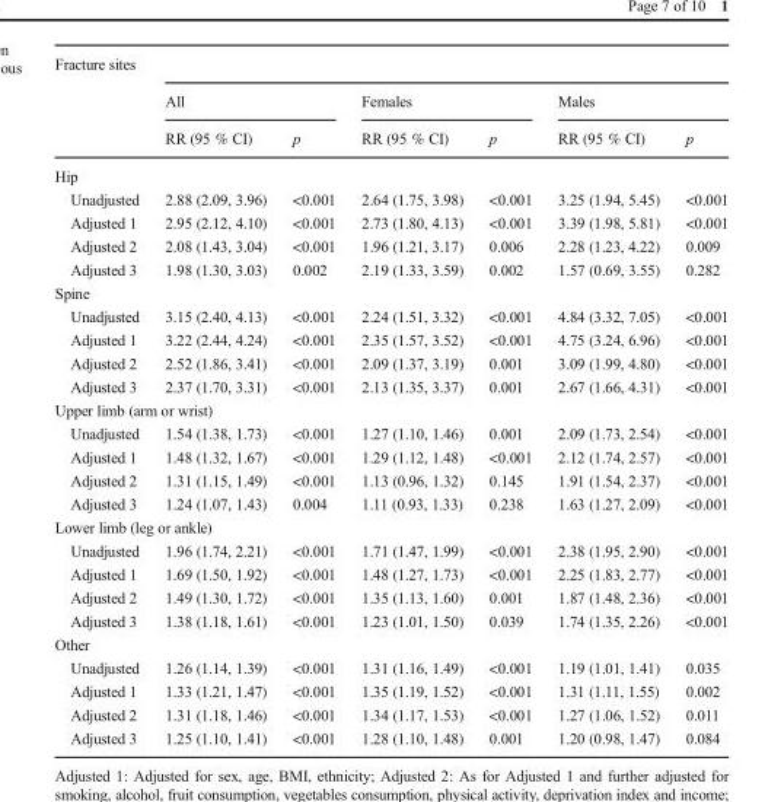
<table><thead><tr><td rowspan="3">Fracture sites</td><td></td><td></td><td></td><td></td><td></td><td></td></tr><tr><td colspan="2">All</td><td colspan="2">Females</td><td colspan="2">Males</td></tr><tr><td>RR (95 % CI)</td><td>p</td><td>RR (95 % CI)</td><td>p</td><td>RR (95 % CI)</td><td>p</td></tr></thead><tbody><tr><td colspan="7">Hip</td></tr><tr><td>Unadjusted</td><td>2.88 (2.09, 3.96)</td><td>&lt;0.001</td><td>2.64 (1.75, 3.98)</td><td>&lt;0.001</td><td>3.25 (1.94, 5.45)</td><td>&lt;0.001</td></tr><tr><td>Adjusted 1</td><td>2.95 (2.12, 4.10)</td><td>&lt;0.001</td><td>2.73 (1.80, 4.13)</td><td>&lt;0.001</td><td>3.39 (1.98, 5.81)</td><td>&lt;0.001</td></tr><tr><td>Adjusted 2</td><td>2.08 (1.43, 3.04)</td><td>&lt;0.001</td><td>1.96 (1.21, 3.17)</td><td>0.006</td><td>2.28 (1.23, 4.22)</td><td>0.009</td></tr><tr><td>Adjusted 3</td><td>1.98 (1.30, 3.03)</td><td>0.002</td><td>2.19 (1.33, 3.59)</td><td>0.002</td><td>1.57 (0.69, 3.55)</td><td>0.282</td></tr><tr><td colspan="7">Spine</td></tr><tr><td>Unadjusted</td><td>3.15 (2.40, 4.13)</td><td>&lt;0.001</td><td>2.24 (1.51, 3.32)</td><td>&lt;0.001</td><td>4.84 (3.32, 7.05)</td><td>&lt;0.001</td></tr><tr><td>Adjusted 1</td><td>3.22 (2.44, 4.24)</td><td>&lt;0.001</td><td>2.35 (1.57, 3.52)</td><td>&lt;0.001</td><td>4.75 (3.24, 6.96)</td><td>&lt;0.001</td></tr><tr><td>Adjusted 2</td><td>2.52 (1.86, 3.41)</td><td>&lt;0.001</td><td>2.09 (1.37, 3.19)</td><td>0.001</td><td>3.09 (1.99, 4.80)</td><td>&lt;0.001</td></tr><tr><td>Adjusted 3</td><td>2.37 (1.70, 3.31)</td><td>&lt;0.001</td><td>2.13 (1.35, 3.37)</td><td>0.001</td><td>2.67 (1.66, 4.31)</td><td>&lt;0.001</td></tr><tr><td colspan="7">Upper limb (arm or wrist)</td></tr><tr><td>Unadjusted</td><td>1.54 (1.38, 1.73)</td><td>&lt;0.001</td><td>1.27 (1.10, 1.46)</td><td>0.001</td><td>2.09 (1.73, 2.54)</td><td>&lt;0.001</td></tr><tr><td>Adjusted 1</td><td>1.48 (1.32, 1.67)</td><td>&lt;0.001</td><td>1.29 (1.12, 1.48)</td><td>&lt;0.001</td><td>2.12 (1.74, 2.57)</td><td>&lt;0.001</td></tr><tr><td>Adjusted 2</td><td>1.31 (1.15, 1.49)</td><td>&lt;0.001</td><td>1.13 (0.96, 1.32)</td><td>0.145</td><td>1.91 (1.54, 2.37)</td><td>&lt;0.001</td></tr><tr><td>Adjusted 3</td><td>1.24 (1.07, 1.43)</td><td>0.004</td><td>1.11 (0.93, 1.33)</td><td>0.238</td><td>1.63 (1.27, 2.09)</td><td>&lt;0.001</td></tr><tr><td colspan="7">Lower limb (leg or ankle)</td></tr><tr><td>Unadjusted</td><td>1.96 (1.74, 2.21)</td><td>&lt;0.001</td><td>1.71 (1.47, 1.99)</td><td>&lt;0.001</td><td>2.38 (1.95, 2.90)</td><td>&lt;0.001</td></tr><tr><td>Adjusted 1</td><td>1.69 (1.50, 1.92)</td><td>&lt;0.001</td><td>1.48 (1.27, 1.73)</td><td>&lt;0.001</td><td>2.25 (1.83, 2.77)</td><td>&lt;0.001</td></tr><tr><td>Adjusted 2</td><td>1.49 (1.30, 1.72)</td><td>&lt;0.001</td><td>1.35 (1.13, 1.60)</td><td>0.001</td><td>1.87 (1.48, 2.36)</td><td>&lt;0.001</td></tr><tr><td>Adjusted 3</td><td>1.38 (1.18, 1.61)</td><td>&lt;0.001</td><td>1.23 (1.01, 1.50)</td><td>0.039</td><td>1.74 (1.35, 2.26)</td><td>&lt;0.001</td></tr><tr><td colspan="7">Other</td></tr><tr><td>Unadjusted</td><td>1.26 (1.14, 1.39)</td><td>&lt;0.001</td><td>1.31 (1.16, 1.49)</td><td>&lt;0.001</td><td>1.19 (1.01, 1.41)</td><td>0.035</td></tr><tr><td>Adjusted 1</td><td>1.33 (1.21, 1.47)</td><td>&lt;0.001</td><td>1.35 (1.19, 1.52)</td><td>&lt;0.001</td><td>1.31 (1.11, 1.55)</td><td>0.002</td></tr><tr><td>Adjusted 2</td><td>1.31 (1.18, 1.46)</td><td>&lt;0.001</td><td>1.34 (1.17, 1.53)</td><td>&lt;0.001</td><td>1.27 (1.06, 1.52)</td><td>0.011</td></tr><tr><td>Adjusted 3</td><td>1.25 (1.10, 1.41)</td><td>&lt;0.001</td><td>1.28 (1.10, 1.48)</td><td>0.001</td><td>1.20 (0.98, 1.47)</td><td>0.084</td></tr></tbody></table>